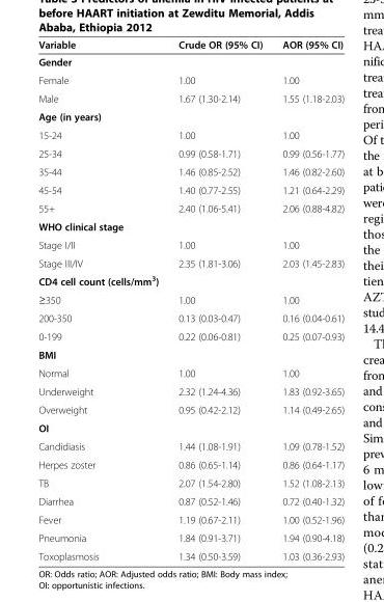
<table><thead><tr><td>Variable</td><td>Crude OR (95% CI)</td><td>AOR (95% CI)</td></tr></thead><tbody><tr><td colspan="3">Gender</td></tr><tr><td>Female</td><td>1.00</td><td>1.00</td></tr><tr><td>Male</td><td>1.67 (1.30-2.14)</td><td>1.55 (1.18-2.03)</td></tr><tr><td colspan="3">Age (in years)</td></tr><tr><td>15-24</td><td>1.00</td><td>1.00</td></tr><tr><td>25-34</td><td>0.99 (0.58-1.71)</td><td>0.99 (0.56-1.77)</td></tr><tr><td>35-44</td><td>1.46 (0.85-2.52)</td><td>1.46 (0.82-2.60)</td></tr><tr><td>45-54</td><td>1.40 (0.77-2.55)</td><td>1.21 (0.64-2.29)</td></tr><tr><td>55+</td><td>2.40 (1.06-5.41)</td><td>2.06 (0.88-4.82)</td></tr><tr><td colspan="3">WHO clinical stage</td></tr><tr><td>Stage I/II</td><td>1.00</td><td>1.00</td></tr><tr><td>Stage III/IV</td><td>2.35 (1.81-3.06)</td><td>2.03 (1.45-2.83)</td></tr><tr><td colspan="3">CD4 cell count (cells/mm<sup>3</sup>)</td></tr><tr><td>≥350</td><td>1.00</td><td>1.00</td></tr><tr><td>200-350</td><td>0.13 (0.03-0.47)</td><td>0.16 (0.04-0.61)</td></tr><tr><td>0-199</td><td>0.22 (0.06-0.81)</td><td>0.25 (0.07-0.93)</td></tr><tr><td colspan="3">BMI</td></tr><tr><td>Normal</td><td>1.00</td><td>1.00</td></tr><tr><td>Underweight</td><td>2.32 (1.24-4.36)</td><td>1.83 (0.92-3.65)</td></tr><tr><td>Overweight</td><td>0.95 (0.42-2.12)</td><td>1.14 (0.49-2.65)</td></tr><tr><td colspan="3">OI</td></tr><tr><td>Candidiasis</td><td>1.44 (1.08-1.91)</td><td>1.09 (0.78-1.52)</td></tr><tr><td>Herpes zoster</td><td>0.86 (0.65-1.14)</td><td>0.86 (0.64-1.17)</td></tr><tr><td>TB</td><td>2.07 (1.54-2.80)</td><td>1.52 (1.08-2.13)</td></tr><tr><td>Diarrhea</td><td>0.87 (0.52-1.46)</td><td>0.72 (0.40-1.32)</td></tr><tr><td>Fever</td><td>1.19 (0.67-2.11)</td><td>1.00 (0.52-1.96)</td></tr><tr><td>Pneumonia</td><td>1.84 (0.91-3.71)</td><td>1.94 (0.90-4.18)</td></tr><tr><td>Toxoplasmosis</td><td>1.34 (0.50-3.59)</td><td>1.03 (0.36-2.93)</td></tr></tbody></table>